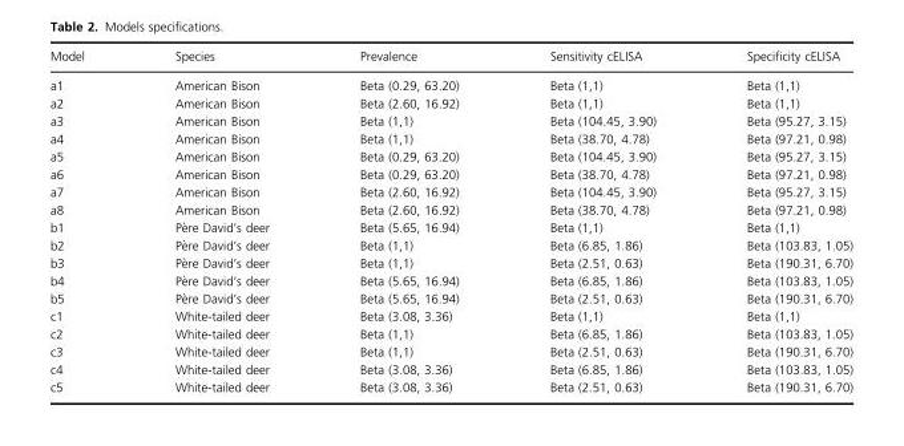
<table><thead><tr><td>Model</td><td>Species</td><td>Prevalence</td><td>Sensitivity cELISA</td><td>Specificity cELISA</td></tr></thead><tbody><tr><td>a1</td><td>American Bison</td><td>Beta (0.29, 63.20)</td><td>Beta (1,1)</td><td>Beta (1,1)</td></tr><tr><td>a2</td><td>American Bison</td><td>Beta (2.60, 16.92)</td><td>Beta (1,1)</td><td>Beta (1,1)</td></tr><tr><td>a3</td><td>American Bison</td><td>Beta (1,1)</td><td>Beta (104.45, 3.90)</td><td>Beta (95.27, 3.15)</td></tr><tr><td>a4</td><td>American Bison</td><td>Beta (1,1)</td><td>Beta (38.70, 4.78)</td><td>Beta (97.21, 0.98)</td></tr><tr><td>a5</td><td>American Bison</td><td>Beta (0.29, 63.20)</td><td>Beta (104.45, 3.90)</td><td>Beta (95.27, 3.15)</td></tr><tr><td>a6</td><td>American Bison</td><td>Beta (0.29, 63.20)</td><td>Beta (38.70, 4.78)</td><td>Beta (97.21, 0.98)</td></tr><tr><td>a7</td><td>American Bison</td><td>Beta (2.60, 16.92)</td><td>Beta (104.45, 3.90)</td><td>Beta (95.27, 3.15)</td></tr><tr><td>a8</td><td>American Bison</td><td>Beta (2.60, 16.92)</td><td>Beta (38.70, 4.78)</td><td>Beta (97.21, 0.98)</td></tr><tr><td>b1</td><td>P�ere David’s deer</td><td>Beta (5.65, 16.94)</td><td>Beta (1,1)</td><td>Beta (1,1)</td></tr><tr><td>b2</td><td>P�ere David’s deer</td><td>Beta (1,1)</td><td>Beta (6.85, 1.86)</td><td>Beta (103.83, 1.05)</td></tr><tr><td>b3</td><td>P�ere David’s deer</td><td>Beta (1,1)</td><td>Beta (2.51, 0.63)</td><td>Beta (190.31, 6.70)</td></tr><tr><td>b4</td><td>P�ere David’s deer</td><td>Beta (5.65, 16.94)</td><td>Beta (6.85, 1.86)</td><td>Beta (103.83, 1.05)</td></tr><tr><td>b5</td><td>P�ere David’s deer</td><td>Beta (5.65, 16.94)</td><td>Beta (2.51, 0.63)</td><td>Beta (190.31, 6.70)</td></tr><tr><td>c1</td><td>White-tailed deer</td><td>Beta (3.08, 3.36)</td><td>Beta (1,1)</td><td>Beta (1,1)</td></tr><tr><td>c2</td><td>White-tailed deer</td><td>Beta (1,1)</td><td>Beta (6.85, 1.86)</td><td>Beta (103.83, 1.05)</td></tr><tr><td>c3</td><td>White-tailed deer</td><td>Beta (1,1)</td><td>Beta (2.51, 0.63)</td><td>Beta (190.31, 6.70)</td></tr><tr><td>c4</td><td>White-tailed deer</td><td>Beta (3.08, 3.36)</td><td>Beta (6.85, 1.86)</td><td>Beta (103.83, 1.05)</td></tr><tr><td>c5</td><td>White-tailed deer</td><td>Beta (3.08, 3.36)</td><td>Beta (2.51, 0.63)</td><td>Beta (190.31, 6.70)</td></tr></tbody></table>